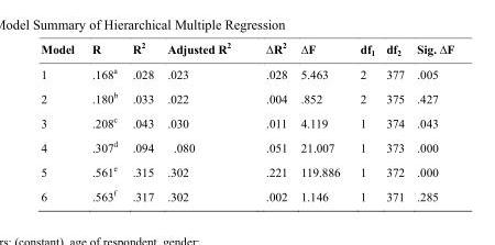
<table><thead><tr><td>Model</td><td>R</td><td>R<sup>2</sup></td><td>Adjusted R<sup>2</sup></td><td>∆R<sup>2</sup></td><td>∆F</td><td>df<sub>1</sub></td><td>df<sub>2</sub></td><td>Sig. ∆F</td></tr></thead><tbody><tr><td>1</td><td>.168<sup>a</sup></td><td>.028</td><td>.023</td><td>.028</td><td>5.463</td><td>2</td><td>377</td><td>.005</td></tr><tr><td>2</td><td>.180<sup>b</sup></td><td>.033</td><td>.022</td><td>.004</td><td>.852</td><td>2</td><td>375</td><td>.427</td></tr><tr><td>3</td><td>.208<sup>c</sup></td><td>.043</td><td>.030</td><td>.011</td><td>4.119</td><td>1</td><td>374</td><td>.043</td></tr><tr><td>4</td><td>.307<sup>d</sup></td><td>.094</td><td>.080</td><td>.051</td><td>21.007</td><td>1</td><td>373</td><td>.000</td></tr><tr><td>5</td><td>.561<sup>e</sup></td><td>.315</td><td>.302</td><td>.221</td><td>119.886</td><td>1</td><td>372</td><td>.000</td></tr><tr><td>6</td><td>.563<sup>f</sup></td><td>.317</td><td>.302</td><td>.002</td><td>1.146</td><td>1</td><td>371</td><td>.285</td></tr></tbody></table>